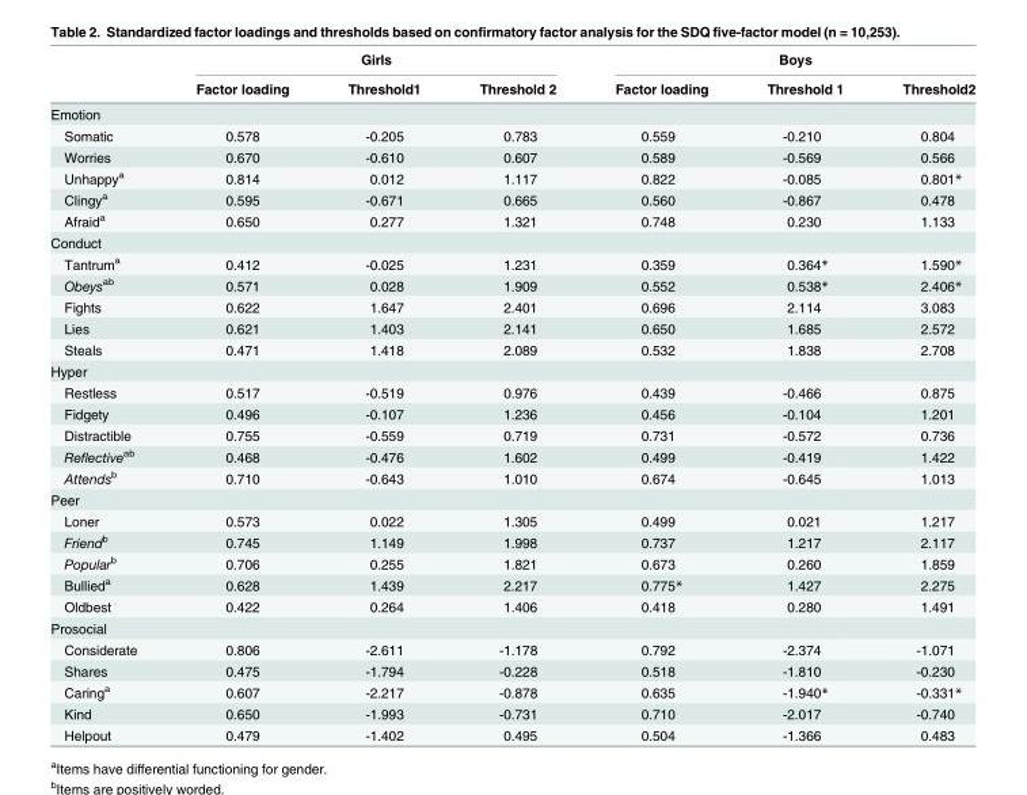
<table><thead><tr><td rowspan="2"></td><td colspan="3">Girls</td><td colspan="3">Boys</td></tr><tr><td>Factor loading</td><td>Threshold1</td><td>Threshold 2</td><td>Factor loading</td><td>Threshold 1</td><td>Threshold2</td></tr></thead><tbody><tr><td colspan="7">Emotion</td></tr><tr><td>Somatic</td><td>0.578</td><td>-0.205</td><td>0.783</td><td>0.559</td><td>-0.210</td><td>0.804</td></tr><tr><td>Worries</td><td>0.670</td><td>-0.610</td><td>0.607</td><td>0.589</td><td>-0.569</td><td>0.566</td></tr><tr><td>Unhappy<sup>a</sup></td><td>0.814</td><td>0.012</td><td>1.117</td><td>0.822</td><td>-0.085</td><td>0.801*</td></tr><tr><td>Clingy<sup>a</sup></td><td>0.595</td><td>-0.671</td><td>0.665</td><td>0.560</td><td>-0.867</td><td>0.478</td></tr><tr><td>Afraid<sup>a</sup></td><td>0.650</td><td>0.277</td><td>1.321</td><td>0.748</td><td>0.230</td><td>1.133</td></tr><tr><td colspan="7">Conduct</td></tr><tr><td>Tantrum<sup>a</sup></td><td>0.412</td><td>-0.025</td><td>1.231</td><td>0.359</td><td>0.364*</td><td>1.590*</td></tr><tr><td>Obeys<sup>ab</sup></td><td>0.571</td><td>0.028</td><td>1.909</td><td>0.552</td><td>0.538*</td><td>2.406*</td></tr><tr><td>Fights</td><td>0.622</td><td>1.647</td><td>2.401</td><td>0.696</td><td>2.114</td><td>3.083</td></tr><tr><td>Lies</td><td>0.621</td><td>1.403</td><td>2.141</td><td>0.650</td><td>1.685</td><td>2.572</td></tr><tr><td>Steals</td><td>0.471</td><td>1.418</td><td>2.089</td><td>0.532</td><td>1.838</td><td>2.708</td></tr><tr><td colspan="7">Hyper</td></tr><tr><td>Restless</td><td>0.517</td><td>-0.519</td><td>0.976</td><td>0.439</td><td>-0.466</td><td>0.875</td></tr><tr><td>Fidgety</td><td>0.496</td><td>-0.107</td><td>1.236</td><td>0.456</td><td>-0.104</td><td>1.201</td></tr><tr><td>Distractible</td><td>0.755</td><td>-0.559</td><td>0.719</td><td>0.731</td><td>-0.572</td><td>0.736</td></tr><tr><td>Reflective<sup>ab</sup></td><td>0.468</td><td>-0.476</td><td>1.602</td><td>0.499</td><td>-0.419</td><td>1.422</td></tr><tr><td>Attends<sup>b</sup></td><td>0.710</td><td>-0.643</td><td>1.010</td><td>0.674</td><td>-0.645</td><td>1.013</td></tr><tr><td colspan="7">Peer</td></tr><tr><td>Loner</td><td>0.573</td><td>0.022</td><td>1.305</td><td>0.499</td><td>0.021</td><td>1.217</td></tr><tr><td>Friend<sup>b</sup></td><td>0.745</td><td>1.149</td><td>1.998</td><td>0.737</td><td>1.217</td><td>2.117</td></tr><tr><td>Popular<sup>b</sup></td><td>0.706</td><td>0.255</td><td>1.821</td><td>0.673</td><td>0.260</td><td>1.859</td></tr><tr><td>Bullied<sup>a</sup></td><td>0.628</td><td>1.439</td><td>2.217</td><td>0.775*</td><td>1.427</td><td>2.275</td></tr><tr><td>Oldbest</td><td>0.422</td><td>0.264</td><td>1.406</td><td>0.418</td><td>0.280</td><td>1.491</td></tr><tr><td colspan="7">Prosocial</td></tr><tr><td>Considerate</td><td>0.806</td><td>-2.611</td><td>-1.178</td><td>0.792</td><td>-2.374</td><td>-1.071</td></tr><tr><td>Shares</td><td>0.475</td><td>-1.794</td><td>-0.228</td><td>0.518</td><td>-1.810</td><td>-0.230</td></tr><tr><td>Caring<sup>a</sup></td><td>0.607</td><td>-2.217</td><td>-0.878</td><td>0.635</td><td>-1.940*</td><td>-0.331*</td></tr><tr><td>Kind</td><td>0.650</td><td>-1.993</td><td>-0.731</td><td>0.710</td><td>-2.017</td><td>-0.740</td></tr><tr><td>Helpout</td><td>0.479</td><td>-1.402</td><td>0.495</td><td>0.504</td><td>-1.366</td><td>0.483</td></tr></tbody></table>